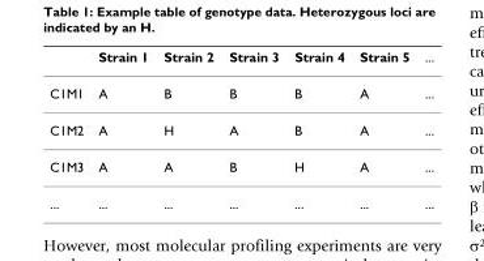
<table><thead><tr><td></td><td>Strain 1</td><td>Strain 2</td><td>Strain 3</td><td>Strain 4</td><td>Strain 5</td><td>...</td></tr></thead><tbody><tr><td>C1M1</td><td>A</td><td>B</td><td>B</td><td>B</td><td>A</td><td>...</td></tr><tr><td>C1M2</td><td>A</td><td>H</td><td>A</td><td>B</td><td>A</td><td>...</td></tr><tr><td>C1M3</td><td>A</td><td>A</td><td>B</td><td>H</td><td>A</td><td>...</td></tr><tr><td>...</td><td>...</td><td>...</td><td>...</td><td>...</td><td>...</td><td>...</td></tr></tbody></table>